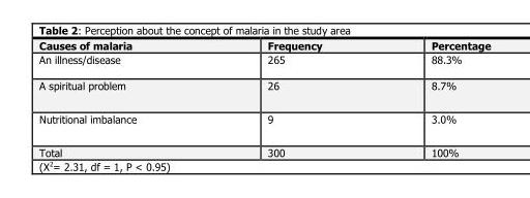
<table><thead><tr><td>Causes of malaria</td><td>Frequency</td><td>Percentage</td></tr></thead><tbody><tr><td>An illness/disease</td><td>265</td><td>88.3%</td></tr><tr><td>A spiritual problem</td><td>26</td><td>8.7%</td></tr><tr><td>Nutritional imbalance</td><td>9</td><td>3.0%</td></tr><tr><td>Total</td><td>300</td><td>100%</td></tr></tbody></table>